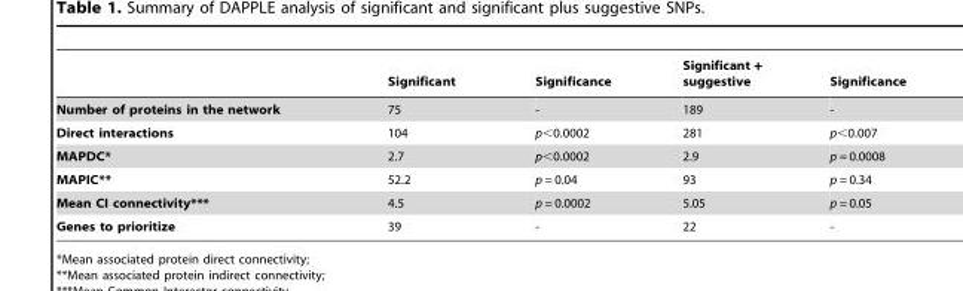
<table><thead><tr><td></td><td>Significant</td><td>Significance</td><td>Significant + suggestive</td><td>Significance</td></tr></thead><tbody><tr><td>Number of proteins in the network</td><td>75</td><td>-</td><td>189</td><td>-</td></tr><tr><td>Direct interactions</td><td>104</td><td>p&lt;0.0002</td><td>281</td><td>p&lt;0.007</td></tr><tr><td>MAPDC*</td><td>2.7</td><td>p&lt;0.0002</td><td>2.9</td><td>p = 0.0008</td></tr><tr><td>MAPIC**</td><td>52.2</td><td>p = 0.04</td><td>93</td><td>p = 0.34</td></tr><tr><td>Mean CI connectivity***</td><td>4.5</td><td>p = 0.0002</td><td>5.05</td><td>p = 0.05</td></tr><tr><td>Genes to prioritize</td><td>39</td><td>-</td><td>22</td><td>-</td></tr></tbody></table>